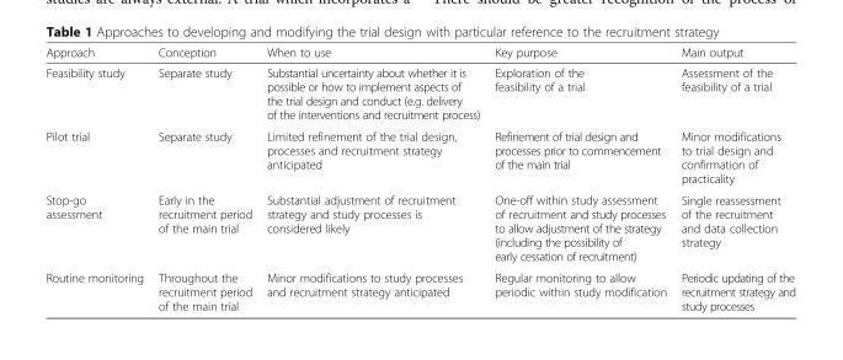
<table><thead><tr><td>Approach</td><td>Conception</td><td>When to use</td><td>Key purpose</td><td>Main output</td></tr></thead><tbody><tr><td>Feasibility study</td><td>Separate study</td><td>Substantial uncertainty about whether it is possible or how to implement aspects of the trial design and conduct (e.g. delivery of the interventions and recruitment process)</td><td>Exploration of the feasibility of a trial</td><td>Assessment of the feasibility of a trial</td></tr><tr><td>Pilot trial</td><td>Separate study</td><td>Limited refinement of the trial design, processes and recruitment strategy anticipated</td><td>Refinement of trial design and processes prior to commencement of the main trial</td><td>Minor modifications to trial design and confirmation of practicality</td></tr><tr><td>Stop-go assessment</td><td>Early in the recruitment period of the main trial</td><td>Substantial adjustment of recruitment strategy and study processes is considered likely</td><td>One-off within study assessment of recruitment and study processes to allow adjustment of the strategy (including the possibility of early cessation of recruitment)</td><td>Single reassessment of the recruitment and data collection strategy</td></tr><tr><td>Routine monitoring</td><td>Throughout the recruitment period of the main trial</td><td>Minor modifications to study processes and recruitment strategy anticipated</td><td>Regular monitoring to allow periodic within study modification</td><td>Periodic updating of the recruitment strategy and study processes</td></tr></tbody></table>